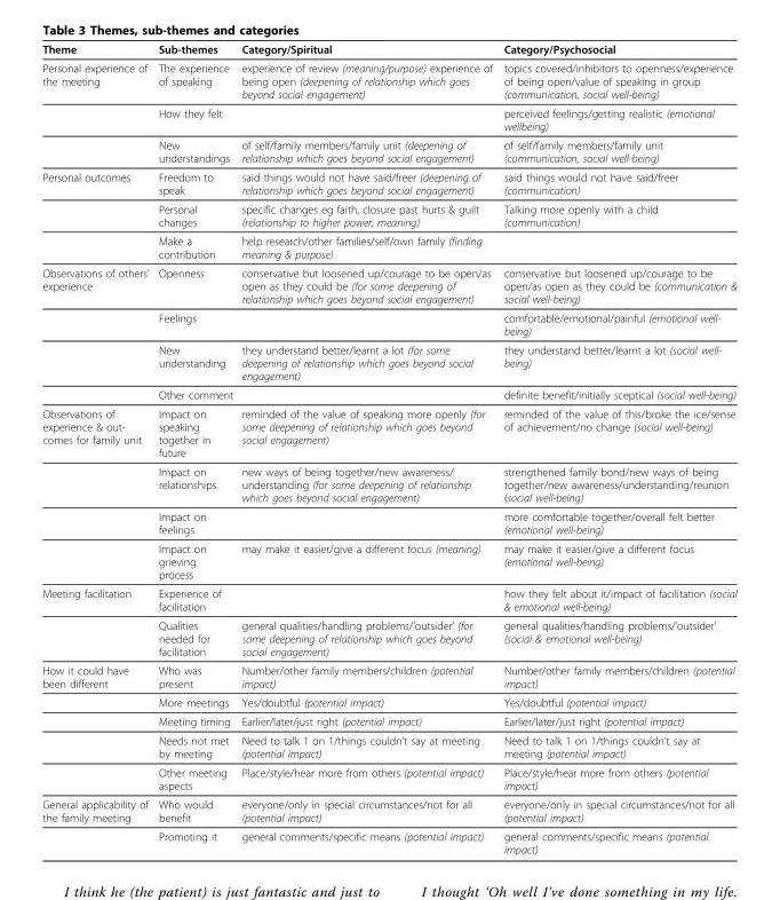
<table><thead><tr><td>Theme</td><td>Sub-themes</td><td>Category/Spiritual</td><td>Category/Psychosocial</td></tr></thead><tbody><tr><td rowspan="3">Personal experience of the meeting</td><td>The experience of speaking</td><td>experience of review (meaning/purpose) experience of being open (deepening of relationship which goes beyond social engagement)</td><td>topics covered/inhibitors to openness/experience of being open/value of speaking in group (communication, social well-being)</td></tr><tr><td>How they felt</td><td></td><td>perceived feelings/getting realistic (emotional wellbeing)</td></tr><tr><td>New understandings</td><td>of self/family members/family unit (deepening of relationship which goes beyond social engagement)</td><td>of self/family members/family unit (communication, social well-being)</td></tr><tr><td rowspan="3">Personal outcomes</td><td>Freedom to speak</td><td>said things would not have said/freer (deepening of relationship which goes beyond social engagement)</td><td>said things would not have said/freer (communication)</td></tr><tr><td>Personal changes</td><td>specific changes eg faith, closure past hurts &amp; guilt (relationship to higher power, meaning)</td><td>Talking more openly with a child (communication)</td></tr><tr><td>Make a contribution</td><td>help research/other families/self/own family (finding meaning &amp; purpose)</td><td></td></tr><tr><td rowspan="4">Observations of others’ experience</td><td>Openness</td><td>conservative but loosened up/courage to be open/as open as they could be (for some deepening of relationship which goes beyond social engagement)</td><td>conservative but loosened up/courage to be open/as open as they could be (communication &amp; social well-being)</td></tr><tr><td>Feelings</td><td></td><td>comfortable/emotional/painful (emotional well- being)</td></tr><tr><td>New understanding</td><td>they understand better/learnt a lot (for some deepening of relationship which goes beyond social engagement)</td><td>they understand better/learnt a lot (social well- being)</td></tr><tr><td>Other comment</td><td></td><td>definite benefit/initially sceptical (social well-being)</td></tr><tr><td rowspan="4">Observations of experience &amp; out- comes for family unit</td><td>Impact on speaking together in future</td><td>reminded of the value of speaking more openly (for some deepening of relationship which goes beyond social engagement)</td><td>reminded of the value of this/broke the ice/sense of achievement/no change (social well-being)</td></tr><tr><td>Impact on relationships</td><td>new ways of being together/new awareness/ understanding (for some deepening of relationship which goes beyond social engagement)</td><td>strengthened family bond/new ways of being together/new awareness/understanding/reunion (social well-being)</td></tr><tr><td>Impact on feelings</td><td></td><td>more comfortable together/overall felt better (emotional well-being)</td></tr><tr><td>Impact on grieving process</td><td>may make it easier/give a different focus (meaning)</td><td>may make it easier/give a different focus (emotional well-being)</td></tr><tr><td rowspan="2">Meeting facilitation</td><td>Experience of facilitation</td><td></td><td>how they felt about it/impact of facilitation (social &amp; emotional well-being)</td></tr><tr><td>Qualities needed for facilitation</td><td>general qualities/handling problems/’outsider’ (for some deepening of relationship which goes beyond social engagement)</td><td>general qualities/handling problems/’outsider’ (social &amp; emotional well-being)</td></tr><tr><td rowspan="5">How it could have been different</td><td>Who was present</td><td>Number/other family members/children (potential impact)</td><td>Number/other family members/children (potential impact)</td></tr><tr><td>More meetings</td><td>Yes/doubtful (potential impact)</td><td>Yes/doubtful (potential impact)</td></tr><tr><td>Meeting timing</td><td>Earlier/later/just right (potential impact)</td><td>Earlier/later/just right (potential impact)</td></tr><tr><td>Needs not met by meeting</td><td>Need to talk 1 on 1/things couldn’t say at meeting (potential impact)</td><td>Need to talk 1 on 1/things couldn’t say at meeting (potential impact)</td></tr><tr><td>Other meeting aspects</td><td>Place/style/hear more from others (potential impact)</td><td>Place/style/hear more from others (potential impact)</td></tr><tr><td rowspan="2">General applicability of the family meeting</td><td>Who would benefit</td><td>everyone/only in special circumstances/not for all (potential impact)</td><td>everyone/only in special circumstances/not for all (potential impact)</td></tr><tr><td>Promoting it</td><td>general comments/specific means (potential impact)</td><td>general comments/specific means (potential impact)</td></tr></tbody></table>